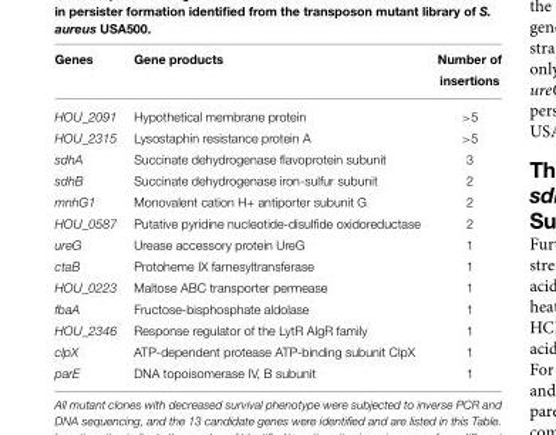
<table><thead><tr><td>Genes</td><td>Gene products</td><td>Number of insertions</td></tr></thead><tbody><tr><td>HOU_2091</td><td>Hypothetical membrane protein</td><td>&gt;5</td></tr><tr><td>HOU_2315</td><td>Lysostaphin resistance protein A</td><td>&gt;5</td></tr><tr><td>sdhA</td><td>Succinate dehydrogenase flavoprotein subunit</td><td>3</td></tr><tr><td>sdhB</td><td>Succinate dehydrogenase iron-sulfur subunit</td><td>2</td></tr><tr><td>mnhG1</td><td>Monovalent cation H+ antiporter subunit G</td><td>2</td></tr><tr><td>HOU_0587</td><td>Putative pyridine nucleotide-disulfide oxidoreductase</td><td>2</td></tr><tr><td>ureG</td><td>Urease accessory protein UreG</td><td>1</td></tr><tr><td>ctaB</td><td>Protoheme IX farnesyltransferase</td><td>1</td></tr><tr><td>HOU_0223</td><td>Maltose ABC transporter permease</td><td>1</td></tr><tr><td>fbaA</td><td>Fructose-bisphosphate aldolase</td><td>1</td></tr><tr><td>HOU_2346</td><td>Response regulator of the LytR AlgR family</td><td>1</td></tr><tr><td>clpX</td><td>ATP-dependent protease ATP-binding subunit ClpX</td><td>1</td></tr><tr><td>parE</td><td>DNA topoisomerase IV, B subunit</td><td>1</td></tr></tbody></table>